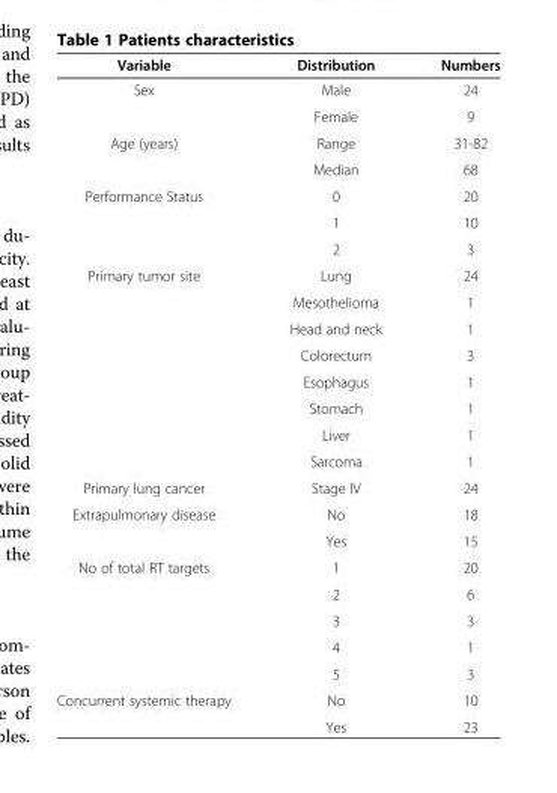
<table><thead><tr><td>Variable</td><td>Distribution</td><td>Numbers</td></tr></thead><tbody><tr><td rowspan="2">Sex</td><td>Male</td><td>24</td></tr><tr><td>Female</td><td>9</td></tr><tr><td rowspan="2">Age (years)</td><td>Range</td><td>31-82</td></tr><tr><td>Median</td><td>68</td></tr><tr><td rowspan="3">Performance Status</td><td>0</td><td>20</td></tr><tr><td>1</td><td>10</td></tr><tr><td>2</td><td>3</td></tr><tr><td rowspan="8">Primary tumor site</td><td>Lung</td><td>24</td></tr><tr><td>Mesothelioma</td><td>1</td></tr><tr><td>Head and neck</td><td>1</td></tr><tr><td>Colorectum</td><td>3</td></tr><tr><td>Esophagus</td><td>1</td></tr><tr><td>Stomach</td><td>1</td></tr><tr><td>Liver</td><td>1</td></tr><tr><td>Sarcoma</td><td>1</td></tr><tr><td>Primary lung cancer</td><td>Stage IV</td><td>24</td></tr><tr><td rowspan="2">Extrapulmonary disease</td><td>No</td><td>18</td></tr><tr><td>Yes</td><td>15</td></tr><tr><td rowspan="5">No of total RT targets</td><td>1</td><td>20</td></tr><tr><td>2</td><td>6</td></tr><tr><td>3</td><td>3</td></tr><tr><td>4</td><td>1</td></tr><tr><td>5</td><td>3</td></tr><tr><td rowspan="2">Concurrent systemic therapy</td><td>No</td><td>10</td></tr><tr><td>Yes</td><td>23</td></tr></tbody></table>